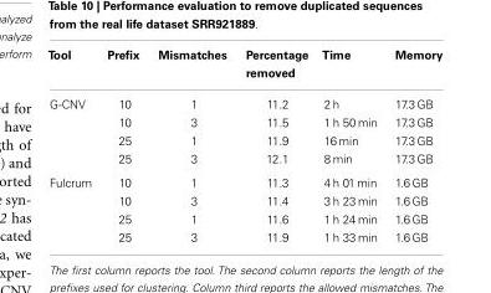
<table><thead><tr><td>Tool</td><td>Prefix</td><td>Mismatches</td><td>Percentage removed</td><td>Time</td><td>Memory</td></tr></thead><tbody><tr><td rowspan="4">G-CNV</td><td>10</td><td>1</td><td>11.2</td><td>2 h</td><td>17.3 GB</td></tr><tr><td>10</td><td>3</td><td>11.5</td><td>1 h 50 min</td><td>17.3 GB</td></tr><tr><td>25</td><td>1</td><td>11.9</td><td>16 min</td><td>17.3 GB</td></tr><tr><td>25</td><td>3</td><td>12.1</td><td>8 min</td><td>17.3 GB</td></tr><tr><td rowspan="4">Fulcrum</td><td>10</td><td>1</td><td>11.3</td><td>4 h 01 min</td><td>1.6 GB</td></tr><tr><td>10</td><td>3</td><td>11.4</td><td>3 h 23 min</td><td>1.6 GB</td></tr><tr><td>25</td><td>1</td><td>11.6</td><td>1 h 24 min</td><td>1.6 GB</td></tr><tr><td>25</td><td>3</td><td>11.9</td><td>1 h 33 min</td><td>1.6 GB</td></tr></tbody></table>